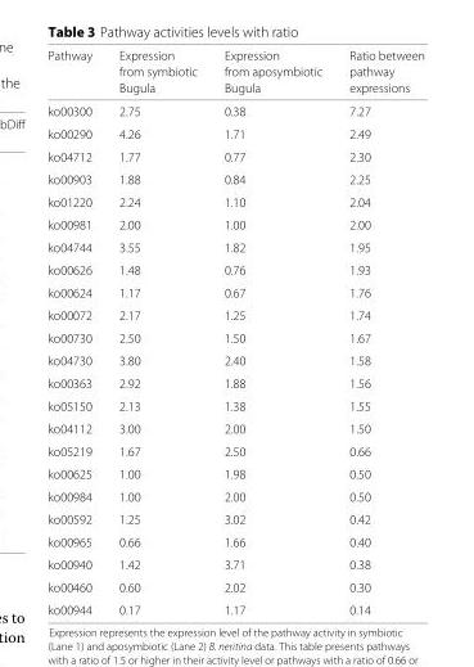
<table><thead><tr><td rowspan="3">Pathway</td><td rowspan="3">Expression from symbiotic Bugula</td><td rowspan="3">Expression from aposymbiotic Bugula</td><td rowspan="3">Ratio between pathway expressions</td></tr><tr></tr><tr></tr></thead><tbody><tr><td>ko00300</td><td>2.75</td><td>0.38</td><td>7.27</td></tr><tr><td>ko00290</td><td>4.26</td><td>1.71</td><td>2.49</td></tr><tr><td>ko04712</td><td>1.77</td><td>0.77</td><td>2.30</td></tr><tr><td>ko00903</td><td>1.88</td><td>0.84</td><td>2.25</td></tr><tr><td>ko01220</td><td>2.24</td><td>1.10</td><td>2.04</td></tr><tr><td>ko00981</td><td>2.00</td><td>1.00</td><td>2.00</td></tr><tr><td>ko04744</td><td>3.55</td><td>1.82</td><td>1.95</td></tr><tr><td>ko00626</td><td>1.48</td><td>0.76</td><td>1.93</td></tr><tr><td>ko00624</td><td>1.17</td><td>0.67</td><td>1.76</td></tr><tr><td>ko00072</td><td>2.17</td><td>1.25</td><td>1.74</td></tr><tr><td>ko00730</td><td>2.50</td><td>1.50</td><td>1.67</td></tr><tr><td>ko04730</td><td>3.80</td><td>2.40</td><td>1.58</td></tr><tr><td>ko00363</td><td>2.92</td><td>1.88</td><td>1.56</td></tr><tr><td>ko05150</td><td>2.13</td><td>1.38</td><td>1.55</td></tr><tr><td>ko04112</td><td>3.00</td><td>2.00</td><td>1.50</td></tr><tr><td>ko05219</td><td>1.67</td><td>2.50</td><td>0.66</td></tr><tr><td>ko00625</td><td>1.00</td><td>1.98</td><td>0.50</td></tr><tr><td>ko00984</td><td>1.00</td><td>2.00</td><td>0.50</td></tr><tr><td>ko00592</td><td>1.25</td><td>3.02</td><td>0.42</td></tr><tr><td>ko00965</td><td>0.66</td><td>1.66</td><td>0.40</td></tr><tr><td>ko00940</td><td>1.42</td><td>3.71</td><td>0.38</td></tr><tr><td>ko00460</td><td>0.60</td><td>2.02</td><td>0.30</td></tr><tr><td>ko00944</td><td>0.17</td><td>1.17</td><td>0.14</td></tr></tbody></table>